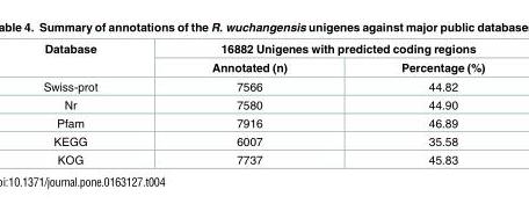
<table><thead><tr><td rowspan="2">Database</td><td colspan="2">16882 Unigenes with predicted coding regions</td></tr><tr><td>Annotated (n)</td><td>Percentage (%)</td></tr></thead><tbody><tr><td>Swiss-prot</td><td>7566</td><td>44.82</td></tr><tr><td>Nr</td><td>7580</td><td>44.90</td></tr><tr><td>Pfam</td><td>7916</td><td>46.89</td></tr><tr><td>KEGG</td><td>6007</td><td>35.58</td></tr><tr><td>KOG</td><td>7737</td><td>45.83</td></tr></tbody></table>